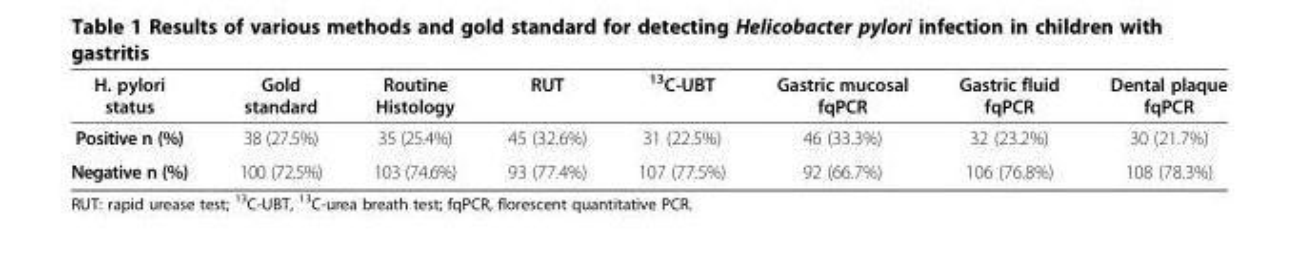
<table><thead><tr><td>H. pylori status</td><td>Gold standard</td><td>Routine Histology</td><td>RUT</td><td><sup>13</sup>C-UBT</td><td>Gastric mucosal fqPCR</td><td>Gastric fluid fqPCR</td><td>Dental plaque fqPCR</td></tr></thead><tbody><tr><td>Positive n (%)</td><td>38 (27.5%)</td><td>35 (25.4%)</td><td>45 (32.6%)</td><td>31 (22.5%)</td><td>46 (33.3%)</td><td>32 (23.2%)</td><td>30 (21.7%)</td></tr><tr><td>Negative n (%)</td><td>100 (72.5%)</td><td>103 (74.6%)</td><td>93 (77.4%)</td><td>107 (77.5%)</td><td>92 (66.7%)</td><td>106 (76.8%)</td><td>108 (78.3%)</td></tr></tbody></table>